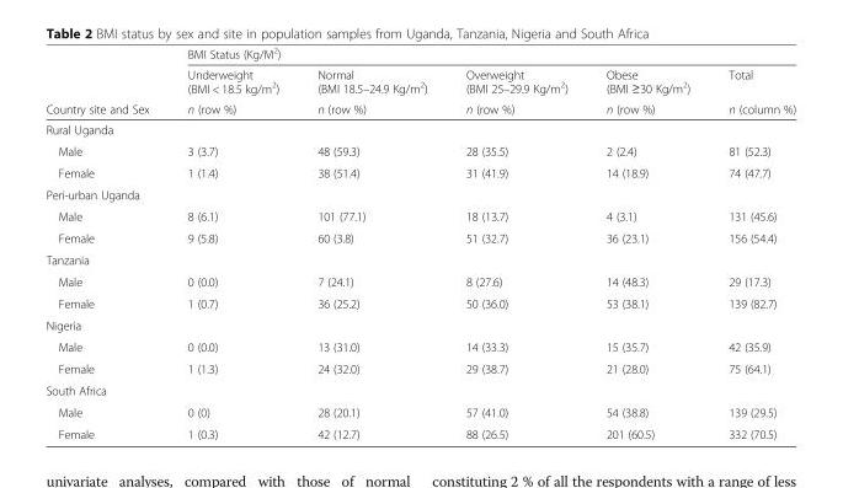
<table><thead><tr><td rowspan="3">Country site and Sex</td><td colspan="5">BMI Status (Kg/M<sup>2</sup>)</td></tr><tr><td rowspan="2">Underweight (BMI &lt; 18.5 kg/m<sup>2</sup>) n (row %)</td><td rowspan="2">Normal (BMI 18.5–24.9 Kg/m<sup>2</sup>) n (row %)</td><td rowspan="2">Overweight (BMI 25–29.9 Kg/m<sup>2</sup>) n (row %)</td><td rowspan="2">Obese (BMI ≥30 Kg/m<sup>2</sup>) n (row %)</td><td rowspan="2">Total n (column %)</td></tr><tr></tr></thead><tbody><tr><td colspan="6">Rural Uganda</td></tr><tr><td>Male</td><td>3 (3.7)</td><td>48 (59.3)</td><td>28 (35.5)</td><td>2 (2.4)</td><td>81 (52.3)</td></tr><tr><td>Female</td><td>1 (1.4)</td><td>38 (51.4)</td><td>31 (41.9)</td><td>14 (18.9)</td><td>74 (47.7)</td></tr><tr><td colspan="6">Peri-urban Uganda</td></tr><tr><td>Male</td><td>8 (6.1)</td><td>101 (77.1)</td><td>18 (13.7)</td><td>4 (3.1)</td><td>131 (45.6)</td></tr><tr><td>Female</td><td>9 (5.8)</td><td>60 (3.8)</td><td>51 (32.7)</td><td>36 (23.1)</td><td>156 (54.4)</td></tr><tr><td colspan="6">Tanzania</td></tr><tr><td>Male</td><td>0 (0.0)</td><td>7 (24.1)</td><td>8 (27.6)</td><td>14 (48.3)</td><td>29 (17.3)</td></tr><tr><td>Female</td><td>1 (0.7)</td><td>36 (25.2)</td><td>50 (36.0)</td><td>53 (38.1)</td><td>139 (82.7)</td></tr><tr><td colspan="6">Nigeria</td></tr><tr><td>Male</td><td>0 (0.0)</td><td>13 (31.0)</td><td>14 (33.3)</td><td>15 (35.7)</td><td>42 (35.9)</td></tr><tr><td>Female</td><td>1 (1.3)</td><td>24 (32.0)</td><td>29 (38.7)</td><td>21 (28.0)</td><td>75 (64.1)</td></tr><tr><td colspan="6">South Africa</td></tr><tr><td>Male</td><td>0 (0)</td><td>28 (20.1)</td><td>57 (41.0)</td><td>54 (38.8)</td><td>139 (29.5)</td></tr><tr><td>Female</td><td>1 (0.3)</td><td>42 (12.7)</td><td>88 (26.5)</td><td>201 (60.5)</td><td>332 (70.5)</td></tr></tbody></table>